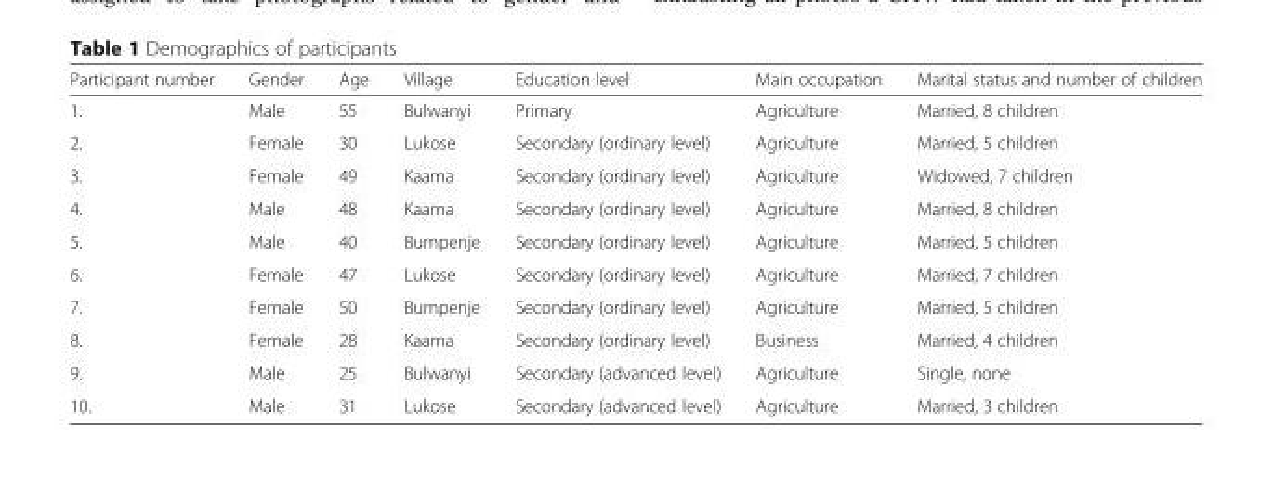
<table><thead><tr><td>Participant number</td><td>Gender</td><td>Age</td><td>Village</td><td>Education level</td><td>Main occupation</td><td>Marital status and number of children</td></tr></thead><tbody><tr><td>1.</td><td>Male</td><td>55</td><td>Bulwanyi</td><td>Primary</td><td>Agriculture</td><td>Married, 8 children</td></tr><tr><td>2.</td><td>Female</td><td>30</td><td>Lukose</td><td>Secondary (ordinary level)</td><td>Agriculture</td><td>Married, 5 children</td></tr><tr><td>3.</td><td>Female</td><td>49</td><td>Kaama</td><td>Secondary (ordinary level)</td><td>Agriculture</td><td>Widowed, 7 children</td></tr><tr><td>4.</td><td>Male</td><td>48</td><td>Kaama</td><td>Secondary (ordinary level)</td><td>Agriculture</td><td>Married, 8 children</td></tr><tr><td>5.</td><td>Male</td><td>40</td><td>Bumpenje</td><td>Secondary (ordinary level)</td><td>Agriculture</td><td>Married, 5 children</td></tr><tr><td>6.</td><td>Female</td><td>47</td><td>Lukose</td><td>Secondary (ordinary level)</td><td>Agriculture</td><td>Married, 7 children</td></tr><tr><td>7.</td><td>Female</td><td>50</td><td>Bumpenje</td><td>Secondary (ordinary level)</td><td>Agriculture</td><td>Married, 5 children</td></tr><tr><td>8.</td><td>Female</td><td>28</td><td>Kaama</td><td>Secondary (ordinary level)</td><td>Business</td><td>Married, 4 children</td></tr><tr><td>9.</td><td>Male</td><td>25</td><td>Bulwanyi</td><td>Secondary (advanced level)</td><td>Agriculture</td><td>Single, none</td></tr><tr><td>10.</td><td>Male</td><td>31</td><td>Lukose</td><td>Secondary (advanced level)</td><td>Agriculture</td><td>Married, 3 children</td></tr></tbody></table>